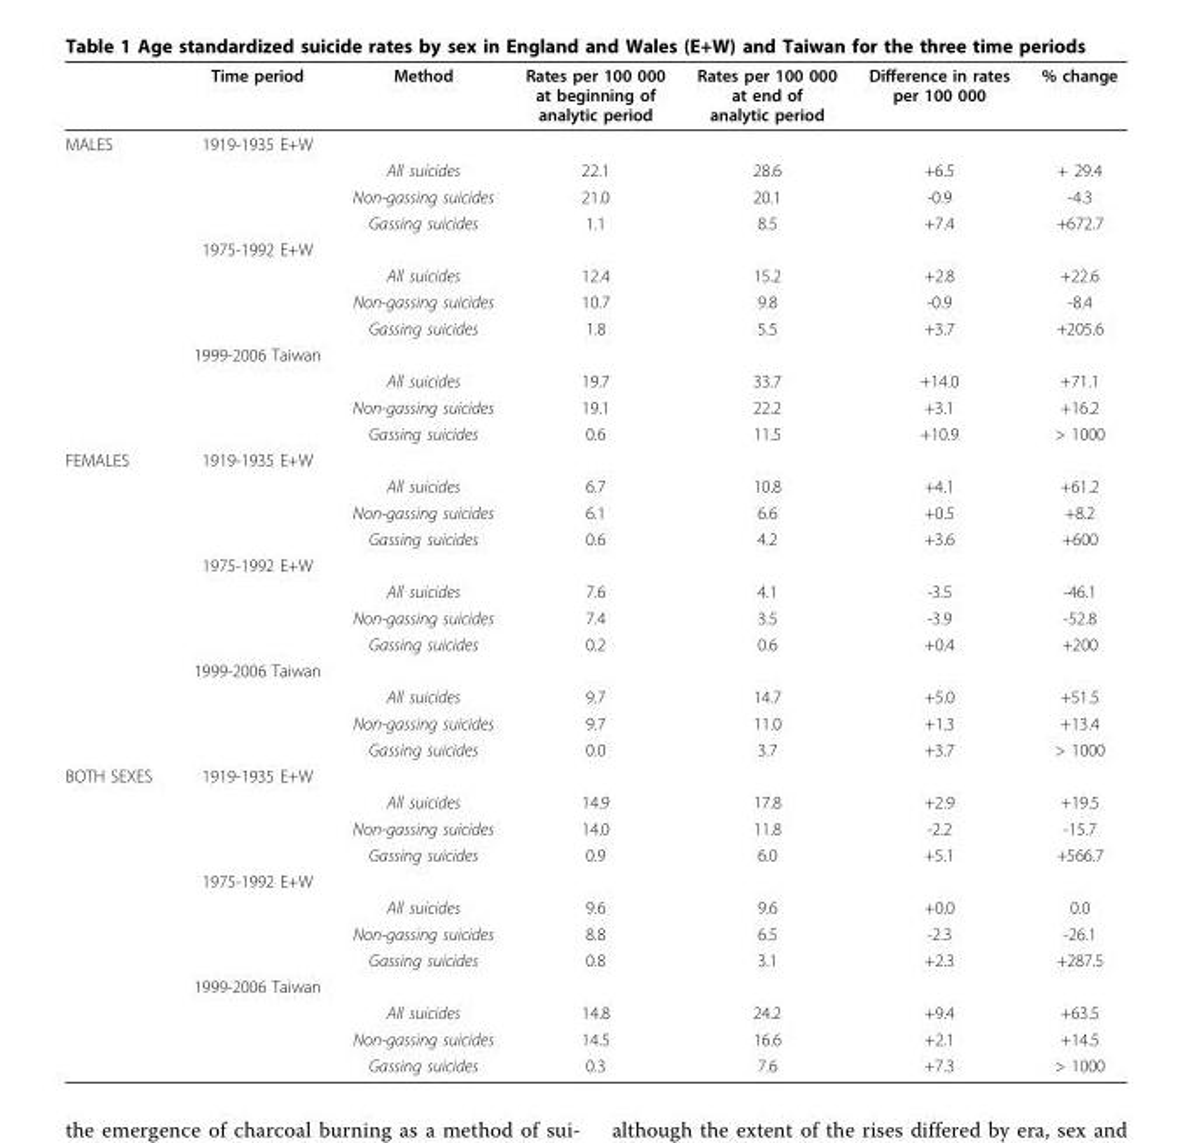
<table><thead><tr><td></td><td>Time period</td><td>Method</td><td>Rates per 100 000 at beginning of analytic period</td><td>Rates per 100 000 at end of analytic period</td><td>Difference in rates per 100 000</td><td>% change</td></tr></thead><tbody><tr><td rowspan="12">MALES</td><td>1919-1935 E+W</td><td></td><td></td><td></td><td></td><td></td></tr><tr><td></td><td>All suicides</td><td>22.1</td><td>28.6</td><td>+6.5</td><td>+ 29.4</td></tr><tr><td></td><td>Non-gassing suicides</td><td>21.0</td><td>20.1</td><td>-0.9</td><td>-4.3</td></tr><tr><td></td><td>Gassing suicides</td><td>1.1</td><td>8.5</td><td>+7.4</td><td>+672.7</td></tr><tr><td>1975-1992 E+W</td><td></td><td></td><td></td><td></td><td></td></tr><tr><td></td><td>All suicides</td><td>12.4</td><td>15.2</td><td>+2.8</td><td>+22.6</td></tr><tr><td></td><td>Non-gassing suicides</td><td>10.7</td><td>9.8</td><td>-0.9</td><td>-8.4</td></tr><tr><td></td><td>Gassing suicides</td><td>1.8</td><td>5.5</td><td>+3.7</td><td>+205.6</td></tr><tr><td>1999-2006 Taiwan</td><td></td><td></td><td></td><td></td><td></td></tr><tr><td></td><td>All suicides</td><td>19.7</td><td>33.7</td><td>+14.0</td><td>+71.1</td></tr><tr><td></td><td>Non-gassing suicides</td><td>19.1</td><td>22.2</td><td>+3.1</td><td>+16.2</td></tr><tr><td></td><td>Gassing suicides</td><td>0.6</td><td>11.5</td><td>+10.9</td><td>&gt; 1000</td></tr><tr><td rowspan="12">FEMALES</td><td>1919-1935 E+W</td><td></td><td></td><td></td><td></td><td></td></tr><tr><td></td><td>All suicides</td><td>6.7</td><td>10.8</td><td>+4.1</td><td>+61.2</td></tr><tr><td></td><td>Non-gassing suicides</td><td>6.1</td><td>6.6</td><td>+0.5</td><td>+8.2</td></tr><tr><td></td><td>Gassing suicides</td><td>0.6</td><td>4.2</td><td>+3.6</td><td>+600</td></tr><tr><td>1975-1992 E+W</td><td></td><td></td><td></td><td></td><td></td></tr><tr><td></td><td>All suicides</td><td>7.6</td><td>4.1</td><td>-3.5</td><td>-46.1</td></tr><tr><td></td><td>Non-gassing suicides</td><td>7.4</td><td>3.5</td><td>-3.9</td><td>-52.8</td></tr><tr><td></td><td>Gassing suicides</td><td>0.2</td><td>0.6</td><td>+0.4</td><td>+200</td></tr><tr><td>1999-2006 Taiwan</td><td></td><td></td><td></td><td></td><td></td></tr><tr><td></td><td>All suicides</td><td>9.7</td><td>14.7</td><td>+5.0</td><td>+51.5</td></tr><tr><td></td><td>Non-gassing suicides</td><td>9.7</td><td>11.0</td><td>+1.3</td><td>+13.4</td></tr><tr><td></td><td>Gassing suicides</td><td>0.0</td><td>3.7</td><td>+3.7</td><td>&gt; 1000</td></tr><tr><td rowspan="12">BOTH SEXES</td><td>1919-1935 E+W</td><td></td><td></td><td></td><td></td><td></td></tr><tr><td></td><td>All suicides</td><td>14.9</td><td>17.8</td><td>+2.9</td><td>+19.5</td></tr><tr><td></td><td>Non-gassing suicides</td><td>14.0</td><td>11.8</td><td>-2.2</td><td>-15.7</td></tr><tr><td></td><td>Gassing suicides</td><td>0.9</td><td>6.0</td><td>+5.1</td><td>+566.7</td></tr><tr><td>1975-1992 E+W</td><td></td><td></td><td></td><td></td><td></td></tr><tr><td></td><td>All suicides</td><td>9.6</td><td>9.6</td><td>+0.0</td><td>0.0</td></tr><tr><td></td><td>Non-gassing suicides</td><td>8.8</td><td>6.5</td><td>-2.3</td><td>-26.1</td></tr><tr><td></td><td>Gassing suicides</td><td>0.8</td><td>3.1</td><td>+2.3</td><td>+287.5</td></tr><tr><td>1999-2006 Taiwan</td><td></td><td></td><td></td><td></td><td></td></tr><tr><td></td><td>All suicides</td><td>14.8</td><td>24.2</td><td>+9.4</td><td>+63.5</td></tr><tr><td></td><td>Non-gassing suicides</td><td>14.5</td><td>16.6</td><td>+2.1</td><td>+14.5</td></tr><tr><td></td><td>Gassing suicides</td><td>0.3</td><td>7.6</td><td>+7.3</td><td>&gt; 1000</td></tr></tbody></table>